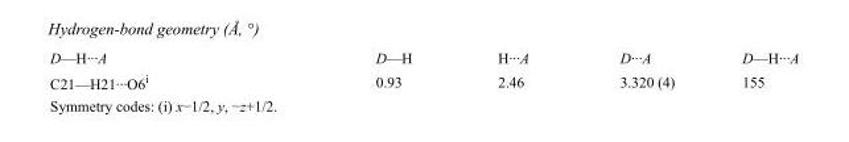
<table><tbody><tr><td>D—H···A</td><td>D—H</td><td>H···A</td><td>D···A</td><td>D—H···A</td></tr><tr><td>C21—H21···O6<sup>i</sup></td><td>0.93</td><td>2.46</td><td>3.320 (4)</td><td>155</td></tr></tbody></table>